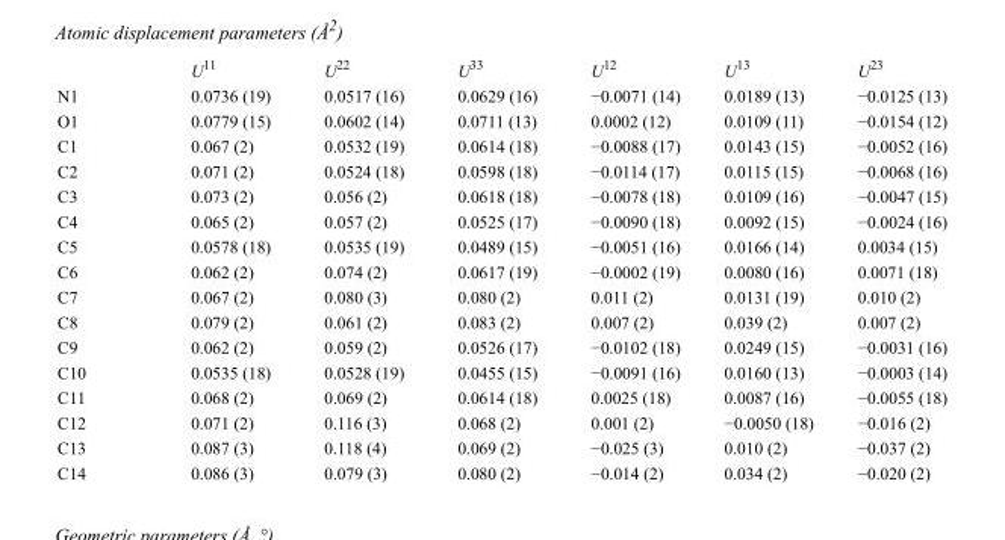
<table><thead><tr><td></td><td>U<sup>11</sup></td><td>U<sup>22</sup></td><td>U<sup>33</sup></td><td>U<sup>12</sup></td><td>U<sup>13</sup></td><td>U<sup>23</sup></td></tr></thead><tbody><tr><td>N1</td><td>0.0736 (19)</td><td>0.0517 (16)</td><td>0.0629 (16)</td><td>−0.0071 (14)</td><td>0.0189 (13)</td><td>−0.0125 (13)</td></tr><tr><td>O1</td><td>0.0779 (15)</td><td>0.0602 (14)</td><td>0.0711 (13)</td><td>0.0002 (12)</td><td>0.0109 (11)</td><td>−0.0154 (12)</td></tr><tr><td>C1</td><td>0.067 (2)</td><td>0.0532 (19)</td><td>0.0614 (18)</td><td>−0.0088 (17)</td><td>0.0143 (15)</td><td>−0.0052 (16)</td></tr><tr><td>C2</td><td>0.071 (2)</td><td>0.0524 (18)</td><td>0.0598 (18)</td><td>−0.0114 (17)</td><td>0.0115 (15)</td><td>−0.0068 (16)</td></tr><tr><td>C3</td><td>0.073 (2)</td><td>0.056 (2)</td><td>0.0618 (18)</td><td>−0.0078 (18)</td><td>0.0109 (16)</td><td>−0.0047 (15)</td></tr><tr><td>C4</td><td>0.065 (2)</td><td>0.057 (2)</td><td>0.0525 (17)</td><td>−0.0090 (18)</td><td>0.0092 (15)</td><td>−0.0024 (16)</td></tr><tr><td>C5</td><td>0.0578 (18)</td><td>0.0535 (19)</td><td>0.0489 (15)</td><td>−0.0051 (16)</td><td>0.0166 (14)</td><td>0.0034 (15)</td></tr><tr><td>C6</td><td>0.062 (2)</td><td>0.074 (2)</td><td>0.0617 (19)</td><td>−0.0002 (19)</td><td>0.0080 (16)</td><td>0.0071 (18)</td></tr><tr><td>C7</td><td>0.067 (2)</td><td>0.080 (3)</td><td>0.080 (2)</td><td>0.011 (2)</td><td>0.0131 (19)</td><td>0.010 (2)</td></tr><tr><td>C8</td><td>0.079 (2)</td><td>0.061 (2)</td><td>0.083 (2)</td><td>0.007 (2)</td><td>0.039 (2)</td><td>0.007 (2)</td></tr><tr><td>C9</td><td>0.062 (2)</td><td>0.059 (2)</td><td>0.0526 (17)</td><td>−0.0102 (18)</td><td>0.0249 (15)</td><td>−0.0031 (16)</td></tr><tr><td>C10</td><td>0.0535 (18)</td><td>0.0528 (19)</td><td>0.0455 (15)</td><td>−0.0091 (16)</td><td>0.0160 (13)</td><td>−0.0003 (14)</td></tr><tr><td>C11</td><td>0.068 (2)</td><td>0.069 (2)</td><td>0.0614 (18)</td><td>0.0025 (18)</td><td>0.0087 (16)</td><td>−0.0055 (18)</td></tr><tr><td>C12</td><td>0.071 (2)</td><td>0.116 (3)</td><td>0.068 (2)</td><td>0.001 (2)</td><td>−0.0050 (18)</td><td>−0.016 (2)</td></tr><tr><td>C13</td><td>0.087 (3)</td><td>0.118 (4)</td><td>0.069 (2)</td><td>−0.025 (3)</td><td>0.010 (2)</td><td>−0.037 (2)</td></tr><tr><td>C14</td><td>0.086 (3)</td><td>0.079 (3)</td><td>0.080 (2)</td><td>−0.014 (2)</td><td>0.034 (2)</td><td>−0.020 (2)</td></tr></tbody></table>